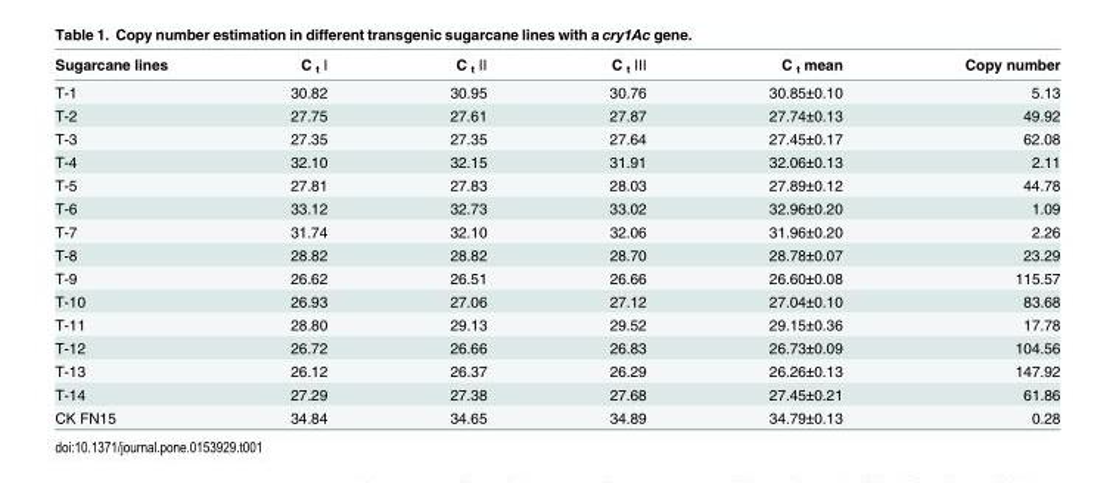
<table><thead><tr><td>Sugarcane lines</td><td>C <sub>t</sub> Ⅰ</td><td>C <sub>t</sub> Ⅱ</td><td>C <sub>t</sub> Ⅲ</td><td>C <sub>t</sub> mean</td><td>Copy number</td></tr></thead><tbody><tr><td>T-1</td><td>30.82</td><td>30.95</td><td>30.76</td><td>30.85±0.10</td><td>5.13</td></tr><tr><td>T-2</td><td>27.75</td><td>27.61</td><td>27.87</td><td>27.74±0.13</td><td>49.92</td></tr><tr><td>T-3</td><td>27.35</td><td>27.35</td><td>27.64</td><td>27.45±0.17</td><td>62.08</td></tr><tr><td>T-4</td><td>32.10</td><td>32.15</td><td>31.91</td><td>32.06±0.13</td><td>2.11</td></tr><tr><td>T-5</td><td>27.81</td><td>27.83</td><td>28.03</td><td>27.89±0.12</td><td>44.78</td></tr><tr><td>T-6</td><td>33.12</td><td>32.73</td><td>33.02</td><td>32.96±0.20</td><td>1.09</td></tr><tr><td>T-7</td><td>31.74</td><td>32.10</td><td>32.06</td><td>31.96±0.20</td><td>2.26</td></tr><tr><td>T-8</td><td>28.82</td><td>28.82</td><td>28.70</td><td>28.78±0.07</td><td>23.29</td></tr><tr><td>T-9</td><td>26.62</td><td>26.51</td><td>26.66</td><td>26.60±0.08</td><td>115.57</td></tr><tr><td>T-10</td><td>26.93</td><td>27.06</td><td>27.12</td><td>27.04±0.10</td><td>83.68</td></tr><tr><td>T-11</td><td>28.80</td><td>29.13</td><td>29.52</td><td>29.15±0.36</td><td>17.78</td></tr><tr><td>T-12</td><td>26.72</td><td>26.66</td><td>26.83</td><td>26.73±0.09</td><td>104.56</td></tr><tr><td>T-13</td><td>26.12</td><td>26.37</td><td>26.29</td><td>26.26±0.13</td><td>147.92</td></tr><tr><td>T-14</td><td>27.29</td><td>27.38</td><td>27.68</td><td>27.45±0.21</td><td>61.86</td></tr><tr><td>CK FN15</td><td>34.84</td><td>34.65</td><td>34.89</td><td>34.79±0.13</td><td>0.28</td></tr></tbody></table>